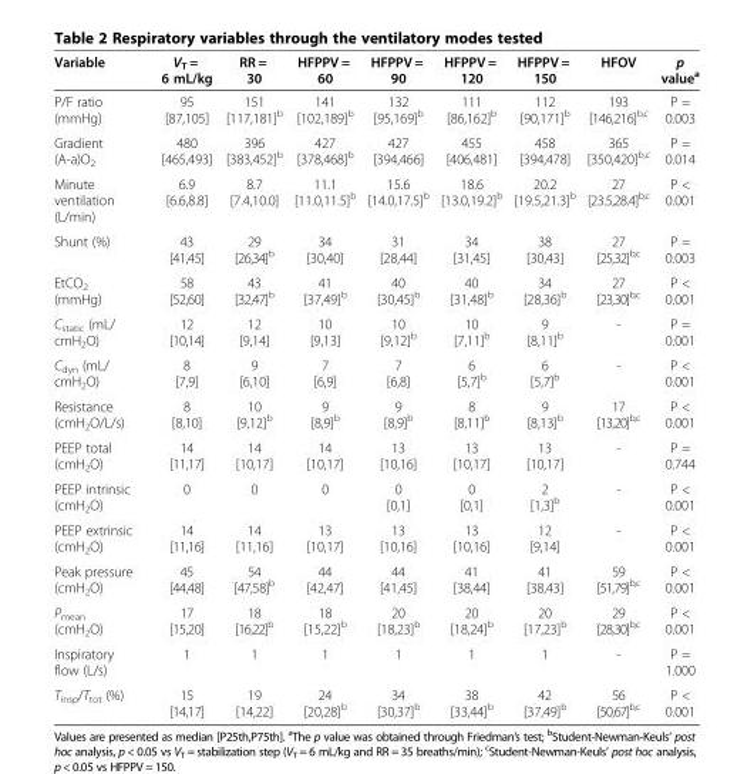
<table><thead><tr><td>Variable</td><td>V<sub>T</sub> = 6 mL/kg</td><td>RR = 30</td><td>HFPPV = 60</td><td>HFPPV = 90</td><td>HFPPV = 120</td><td>HFPPV = 150</td><td>HFOV</td><td>p value<sup>a</sup></td></tr></thead><tbody><tr><td>P/F ratio (mmHg)</td><td>95 [87,105]</td><td>151 [117,181]<sup>b</sup></td><td>141 [102,189]<sup>b</sup></td><td>132 [95,169]<sup>b</sup></td><td>111 [86,162]<sup>b</sup></td><td>112 [90,171]<sup>b</sup></td><td>193 [146,216]<sup>b,c</sup></td><td>P = 0.003</td></tr><tr><td>Gradient (A-a)O<sub>2</sub></td><td>480 [465,493]</td><td>396 [383,452]<sup>b</sup></td><td>427 [378,468]<sup>b</sup></td><td>427 [394,466]</td><td>455 [406,481]</td><td>458 [394,478]</td><td>365 [350,420]<sup>b,c</sup></td><td>P = 0.014</td></tr><tr><td>Minute ventilation (L/min)</td><td>6.9 [6.6,8.8]</td><td>8.7 [7.4,10.0]</td><td>11.1 [11.0,11.5]<sup>b</sup></td><td>15.6 [14.0,17.5]<sup>b</sup></td><td>18.6 [13.0,19.2]<sup>b</sup></td><td>20.2 [19.5,21.3]<sup>b</sup></td><td>27 [23.5,28.4]<sup>b,c</sup></td><td>P &lt; 0.001</td></tr><tr><td>Shunt (%)</td><td>43 [41,45]</td><td>29 [26,34]<sup>b</sup></td><td>34 [30,40]</td><td>31 [28,44]</td><td>34 [31,45]</td><td>38 [30,43]</td><td>27 [25,32]<sup>b,c</sup></td><td>P = 0.003</td></tr><tr><td>EtCO<sub>2</sub> (mmHg)</td><td>58 [52,60]</td><td>43 [32,47]<sup>b</sup></td><td>41 [37,49]<sup>b</sup></td><td>40 [30,45]<sup>b</sup></td><td>40 [31,48]<sup>b</sup></td><td>34 [28,36]<sup>b</sup></td><td>27 [23,30]<sup>b,c</sup></td><td>P &lt; 0.001</td></tr><tr><td>C<sub>static</sub> (mL/ cmH<sub>2</sub>O)</td><td>12 [10,14]</td><td>12 [9,14]</td><td>10 [9,13]</td><td>10 [9,12]<sup>b</sup></td><td>10 [7,11]<sup>b</sup></td><td>9 [8,11]<sup>b</sup></td><td>-</td><td>P = 0.001</td></tr><tr><td>C<sub>dyn</sub> (mL/ cmH<sub>2</sub>O)</td><td>8 [7,9]</td><td>9 [6,10]</td><td>7 [6,9]</td><td>7 [6,8]</td><td>6 [5,7]<sup>b</sup></td><td>6 [5,7]<sup>b</sup></td><td>-</td><td>P &lt; 0.001</td></tr><tr><td>Resistance (cmH<sub>2</sub>O/L/s)</td><td>8 [8,10]</td><td>10 [9,12]<sup>b</sup></td><td>9 [8,9]<sup>b</sup></td><td>9 [8,9]<sup>b</sup></td><td>8 [8,11]<sup>b</sup></td><td>9 [8,13]<sup>b</sup></td><td>17 [13,20]<sup>b,c</sup></td><td>P &lt; 0.001</td></tr><tr><td>PEEP total (cmH<sub>2</sub>O)</td><td>14 [11,17]</td><td>14 [10,17]</td><td>14 [10,17]</td><td>13 [10,16]</td><td>13 [10,17]</td><td>13 [10,17]</td><td>-</td><td>P = 0.744</td></tr><tr><td>PEEP intrinsic (cmH<sub>2</sub>O)</td><td>0</td><td>0</td><td>0</td><td>0 [0,1]</td><td>0 [0,1]</td><td>2 [1,3]<sup>b</sup></td><td>-</td><td>P &lt; 0.001</td></tr><tr><td>PEEP extrinsic (cmH<sub>2</sub>O)</td><td>14 [11,16]</td><td>14 [11,16]</td><td>13 [10,17]</td><td>13 [10,16]</td><td>13 [10,16]</td><td>12 [9,14]</td><td>-</td><td>P &lt; 0.001</td></tr><tr><td>Peak pressure (cmH<sub>2</sub>O)</td><td>45 [44,48]</td><td>54 [47,58]<sup>b</sup></td><td>44 [42,47]</td><td>44 [41,45]</td><td>41 [38,44]</td><td>41 [38,43]</td><td>59 [51,79]<sup>b,c</sup></td><td>P &lt; 0.001</td></tr><tr><td>P<sub>mean</sub> (cmH<sub>2</sub>O)</td><td>17 [15,20]</td><td>18 [16,22]<sup>b</sup></td><td>18 [15,22]<sup>b</sup></td><td>20 [18,23]<sup>b</sup></td><td>20 [18,24]<sup>b</sup></td><td>20 [17,23]<sup>b</sup></td><td>29 [28,30]<sup>b,c</sup></td><td>P &lt; 0.001</td></tr><tr><td>Inspiratory flow (L/s)</td><td>1</td><td>1</td><td>1</td><td>1</td><td>1</td><td>1</td><td>-</td><td>P = 1.000</td></tr><tr><td>T<sub>insp</sub>/T<sub>tot</sub> (%)</td><td>15 [14,17]</td><td>19 [14,22]</td><td>24 [20,28]<sup>b</sup></td><td>34 [30,37]<sup>b</sup></td><td>38 [33,44]<sup>b</sup></td><td>42 [37,49]<sup>b</sup></td><td>56 [50,67]<sup>b,c</sup></td><td>P &lt; 0.001</td></tr></tbody></table>